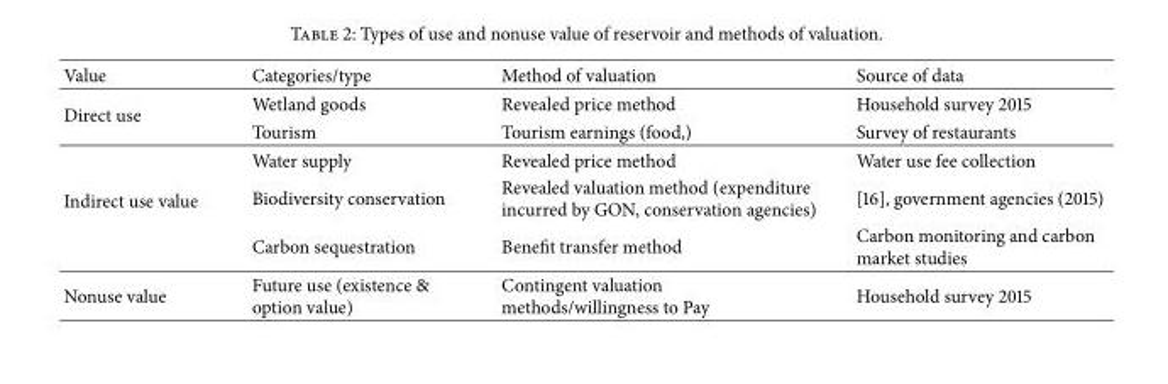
<table><thead><tr><td>Value</td><td>Categories/type</td><td>Method of valuation</td><td>Source of data</td></tr></thead><tbody><tr><td rowspan="2">Direct use</td><td>Wetland goods</td><td>Revealed price method</td><td>Household survey 2015</td></tr><tr><td>Tourism</td><td>Tourism earnings (food,)</td><td>Survey of restaurants</td></tr><tr><td rowspan="3">Indirect use value</td><td>Water supply</td><td>Revealed price method</td><td>Water use fee collection</td></tr><tr><td>Biodiversity conservation</td><td>Revealed valuation method (expenditure incurred by GON, conservation agencies)</td><td>[16], government agencies (2015)</td></tr><tr><td>Carbon sequestration</td><td>Benefit transfer method</td><td>Carbon monitoring and carbon market studies</td></tr><tr><td>Nonuse value</td><td>Future use (existence &amp; option value)</td><td>Contingent valuation methods/willingness to Pay</td><td>Household survey 2015</td></tr></tbody></table>